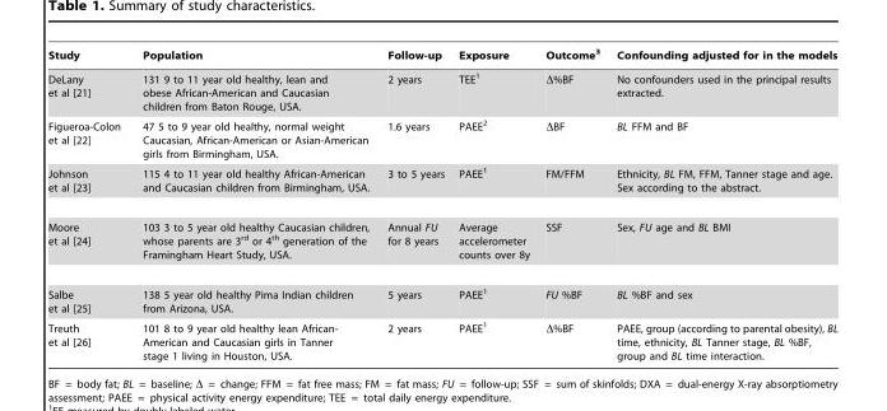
<table><thead><tr><td>Study</td><td>Population</td><td>Follow-up</td><td>Exposure</td><td>Outcome<sup>3</sup></td><td>Confounding adjusted for in the models</td></tr></thead><tbody><tr><td>DeLany et al [21]</td><td>131 9 to 11 year old healthy, lean and obese African-American and Caucasian children from Baton Rouge, USA.</td><td>2 years</td><td>TEE<sup>1</sup></td><td>Δ%BF</td><td>No confounders used in the principal results extracted.</td></tr><tr><td>Figueroa-Colon et al [22]</td><td>47 5 to 9 year old healthy, normal weight Caucasian, African-American or Asian-American girls from Birmingham, USA.</td><td>1.6 years</td><td>PAEE<sup>2</sup></td><td>ΔBF</td><td>BL FFM and BF</td></tr><tr><td>Johnson et al [23]</td><td>115 4 to 11 year old healthy African-American and Caucasian children from Birmingham, USA.</td><td>3 to 5 years</td><td>PAEE<sup>1</sup></td><td>FM/FFM</td><td>Ethnicity, BL FM, FFM, Tanner stage and age. Sex according to the abstract.</td></tr><tr><td>Moore et al [24]</td><td>103 3 to 5 year old healthy Caucasian children, whose parents are 3<sup>rd</sup> or 4<sup>th</sup> generation of the Framingham Heart Study, USA.</td><td>Annual FU for 8 years</td><td>Average accelerometer counts over 8y</td><td>SSF</td><td>Sex, FU age and BL BMI</td></tr><tr><td>Salbe et al [25]</td><td>138 5 year old healthy Pima Indian children from Arizona, USA.</td><td>5 years</td><td>PAEE<sup>1</sup></td><td>FU %BF</td><td>BL %BF and sex</td></tr><tr><td>Treuth et al [26]</td><td>101 8 to 9 year old healthy lean African- American and Caucasian girls in Tanner stage 1 living in Houston, USA.</td><td>2 years</td><td>PAEE<sup>1</sup></td><td>Δ%BF</td><td>PAEE, group (according to parental obesity), BL time, ethnicity, BL Tanner stage, BL %BF, group and BL time interaction.</td></tr></tbody></table>